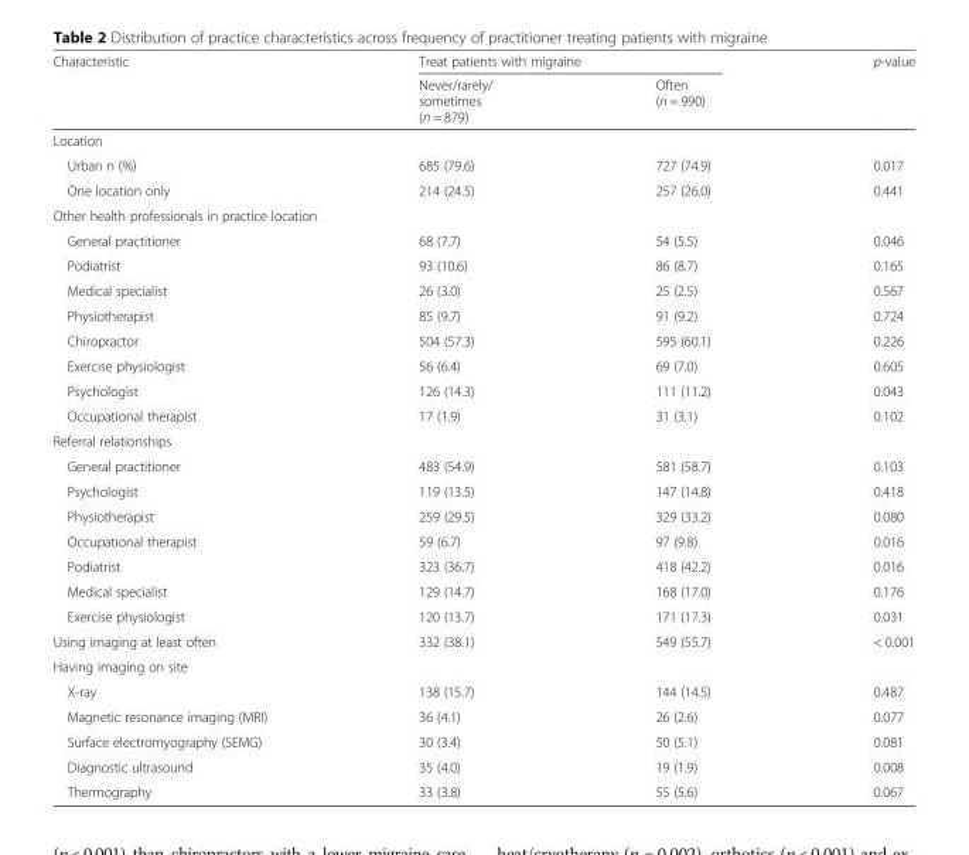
<table><thead><tr><td rowspan="2">Characteristic</td><td colspan="2">Treat patients with migraine</td><td rowspan="2">p-value</td></tr><tr><td>Never/rarely/ sometimes (n = 879)</td><td>Often (n = 990)</td></tr></thead><tbody><tr><td colspan="4">Location</td></tr><tr><td>Urban n (%)</td><td>685 (79.6)</td><td>727 (74.9)</td><td>0.017</td></tr><tr><td>One location only</td><td>214 (24.5)</td><td>257 (26.0)</td><td>0.441</td></tr><tr><td colspan="4">Other health professionals in practice location</td></tr><tr><td>General practitioner</td><td>68 (7.7)</td><td>54 (5.5)</td><td>0.046</td></tr><tr><td>Podiatrist</td><td>93 (10.6)</td><td>86 (8.7)</td><td>0.165</td></tr><tr><td>Medical specialist</td><td>26 (3.0)</td><td>25 (2.5)</td><td>0.567</td></tr><tr><td>Physiotherapist</td><td>85 (9.7)</td><td>91 (9.2)</td><td>0.724</td></tr><tr><td>Chiropractor</td><td>504 (57.3)</td><td>595 (60.1)</td><td>0.226</td></tr><tr><td>Exercise physiologist</td><td>56 (6.4)</td><td>69 (7.0)</td><td>0.605</td></tr><tr><td>Psychologist</td><td>126 (14.3)</td><td>111 (11.2)</td><td>0.043</td></tr><tr><td>Occupational therapist</td><td>17 (1.9)</td><td>31 (3.1)</td><td>0.102</td></tr><tr><td colspan="4">Referral relationships</td></tr><tr><td>General practitioner</td><td>483 (54.9)</td><td>581 (58.7)</td><td>0.103</td></tr><tr><td>Psychologist</td><td>119 (13.5)</td><td>147 (14.8)</td><td>0.418</td></tr><tr><td>Physiotherapist</td><td>259 (29.5)</td><td>329 (33.2)</td><td>0.080</td></tr><tr><td>Occupational therapist</td><td>59 (6.7)</td><td>97 (9.8)</td><td>0.016</td></tr><tr><td>Podiatrist</td><td>323 (36.7)</td><td>418 (42.2)</td><td>0.016</td></tr><tr><td>Medical specialist</td><td>129 (14.7)</td><td>168 (17.0)</td><td>0.176</td></tr><tr><td>Exercise physiologist</td><td>120 (13.7)</td><td>171 (17.3)</td><td>0.031</td></tr><tr><td>Using imaging at least often</td><td>332 (38.1)</td><td>549 (55.7)</td><td>&lt; 0.001</td></tr><tr><td colspan="4">Having imaging on site</td></tr><tr><td>X-ray</td><td>138 (15.7)</td><td>144 (14.5)</td><td>0.487</td></tr><tr><td>Magnetic resonance imaging (MRI)</td><td>36 (4.1)</td><td>26 (2.6)</td><td>0.077</td></tr><tr><td>Surface electromyography (SEMG)</td><td>30 (3.4)</td><td>50 (5.1)</td><td>0.081</td></tr><tr><td>Diagnostic ultrasound</td><td>35 (4.0)</td><td>19 (1.9)</td><td>0.008</td></tr><tr><td>Thermography</td><td>33 (3.8)</td><td>55 (5.6)</td><td>0.067</td></tr></tbody></table>